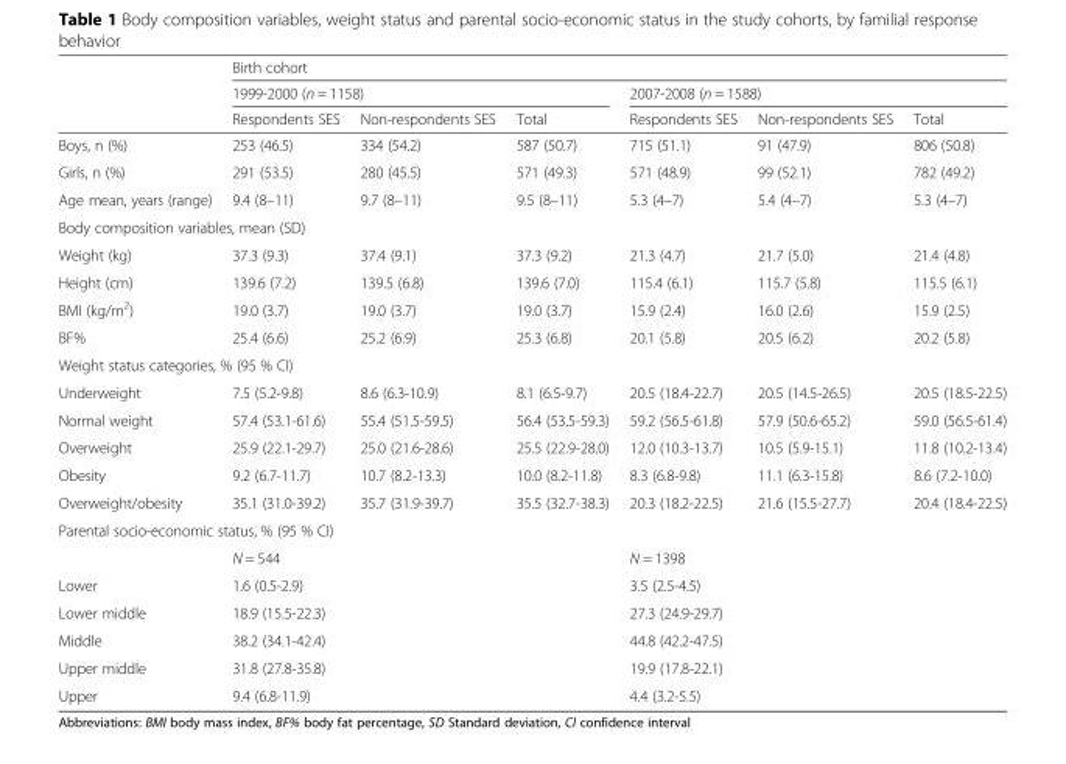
<table><thead><tr><td rowspan="3"></td><td colspan="6">Birth cohort</td></tr><tr><td colspan="3">1999-2000 (n = 1158)</td><td colspan="3">2007-2008 (n = 1588)</td></tr><tr><td>Respondents SES</td><td>Non-respondents SES</td><td>Total</td><td>Respondents SES</td><td>Non-respondents SES</td><td>Total</td></tr></thead><tbody><tr><td>Boys, n (%)</td><td>253 (46.5)</td><td>334 (54.2)</td><td>587 (50.7)</td><td>715 (51.1)</td><td>91 (47.9)</td><td>806 (50.8)</td></tr><tr><td>Girls, n (%)</td><td>291 (53.5)</td><td>280 (45.5)</td><td>571 (49.3)</td><td>571 (48.9)</td><td>99 (52.1)</td><td>782 (49.2)</td></tr><tr><td>Age mean, years (range)</td><td>9.4 (8–11)</td><td>9.7 (8–11)</td><td>9.5 (8–11)</td><td>5.3 (4–7)</td><td>5.4 (4–7)</td><td>5.3 (4–7)</td></tr><tr><td colspan="7">Body composition variables, mean (SD)</td></tr><tr><td>Weight (kg)</td><td>37.3 (9.3)</td><td>37.4 (9.1)</td><td>37.3 (9.2)</td><td>21.3 (4.7)</td><td>21.7 (5.0)</td><td>21.4 (4.8)</td></tr><tr><td>Height (cm)</td><td>139.6 (7.2)</td><td>139.5 (6.8)</td><td>139.6 (7.0)</td><td>115.4 (6.1)</td><td>115.7 (5.8)</td><td>115.5 (6.1)</td></tr><tr><td>BMI (kg/m<sup>2</sup>)</td><td>19.0 (3.7)</td><td>19.0 (3.7)</td><td>19.0 (3.7)</td><td>15.9 (2.4)</td><td>16.0 (2.6)</td><td>15.9 (2.5)</td></tr><tr><td>BF%</td><td>25.4 (6.6)</td><td>25.2 (6.9)</td><td>25.3 (6.8)</td><td>20.1 (5.8)</td><td>20.5 (6.2)</td><td>20.2 (5.8)</td></tr><tr><td colspan="7">Weight status categories, % (95 % CI)</td></tr><tr><td>Underweight</td><td>7.5 (5.2-9.8)</td><td>8.6 (6.3-10.9)</td><td>8.1 (6.5-9.7)</td><td>20.5 (18.4-22.7)</td><td>20.5 (14.5-26.5)</td><td>20.5 (18.5-22.5)</td></tr><tr><td>Normal weight</td><td>57.4 (53.1-61.6)</td><td>55.4 (51.5-59.5)</td><td>56.4 (53.5-59.3)</td><td>59.2 (56.5-61.8)</td><td>57.9 (50.6-65.2)</td><td>59.0 (56.5-61.4)</td></tr><tr><td>Overweight</td><td>25.9 (22.1-29.7)</td><td>25.0 (21.6-28.6)</td><td>25.5 (22.9-28.0)</td><td>12.0 (10.3-13.7)</td><td>10.5 (5.9-15.1)</td><td>11.8 (10.2-13.4)</td></tr><tr><td>Obesity</td><td>9.2 (6.7-11.7)</td><td>10.7 (8.2-13.3)</td><td>10.0 (8.2-11.8)</td><td>8.3 (6.8-9.8)</td><td>11.1 (6.3-15.8)</td><td>8.6 (7.2-10.0)</td></tr><tr><td>Overweight/obesity</td><td>35.1 (31.0-39.2)</td><td>35.7 (31.9-39.7)</td><td>35.5 (32.7-38.3)</td><td>20.3 (18.2-22.5)</td><td>21.6 (15.5-27.7)</td><td>20.4 (18.4-22.5)</td></tr><tr><td colspan="7">Parental socio-economic status, % (95 % CI)</td></tr><tr><td></td><td colspan="3">N = 544</td><td colspan="3">N = 1398</td></tr><tr><td>Lower</td><td colspan="3">1.6 (0.5-2.9)</td><td colspan="3">3.5 (2.5-4.5)</td></tr><tr><td>Lower middle</td><td colspan="3">18.9 (15.5-22.3)</td><td colspan="3">27.3 (24.9-29.7)</td></tr><tr><td>Middle</td><td colspan="3">38.2 (34.1-42.4)</td><td colspan="3">44.8 (42.2-47.5)</td></tr><tr><td>Upper middle</td><td colspan="3">31.8 (27.8-35.8)</td><td colspan="3">19.9 (17.8-22.1)</td></tr><tr><td>Upper</td><td colspan="3">9.4 (6.8-11.9)</td><td colspan="3">4.4 (3.2-5.5)</td></tr></tbody></table>